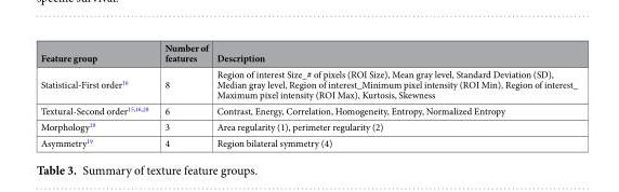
<table><thead><tr><td>Feature group</td><td>Number of features</td><td>Description</td></tr></thead><tbody><tr><td>Statistical-First order<sup>16</sup></td><td>8</td><td>Region of interest Size_# of pixels (ROI Size), Mean gray level, Standard Deviation (SD), Median gray level, Region of interest_Minimum pixel intensity (ROI Min), Region of interest_ Maximum pixel intensity (ROI Max), Kurtosis, Skewness</td></tr><tr><td>Textural-Second order<sup>15,16,28</sup></td><td>6</td><td>Contrast, Energy, Correlation, Homogeneity, Entropy, Normalized Entropy</td></tr><tr><td>Morphology<sup>19</sup></td><td>3</td><td>Area regularity (1), perimeter regularity (2)</td></tr><tr><td>Asymmetry<sup>19</sup></td><td>4</td><td>Region bilateral symmetry (4)</td></tr></tbody></table>